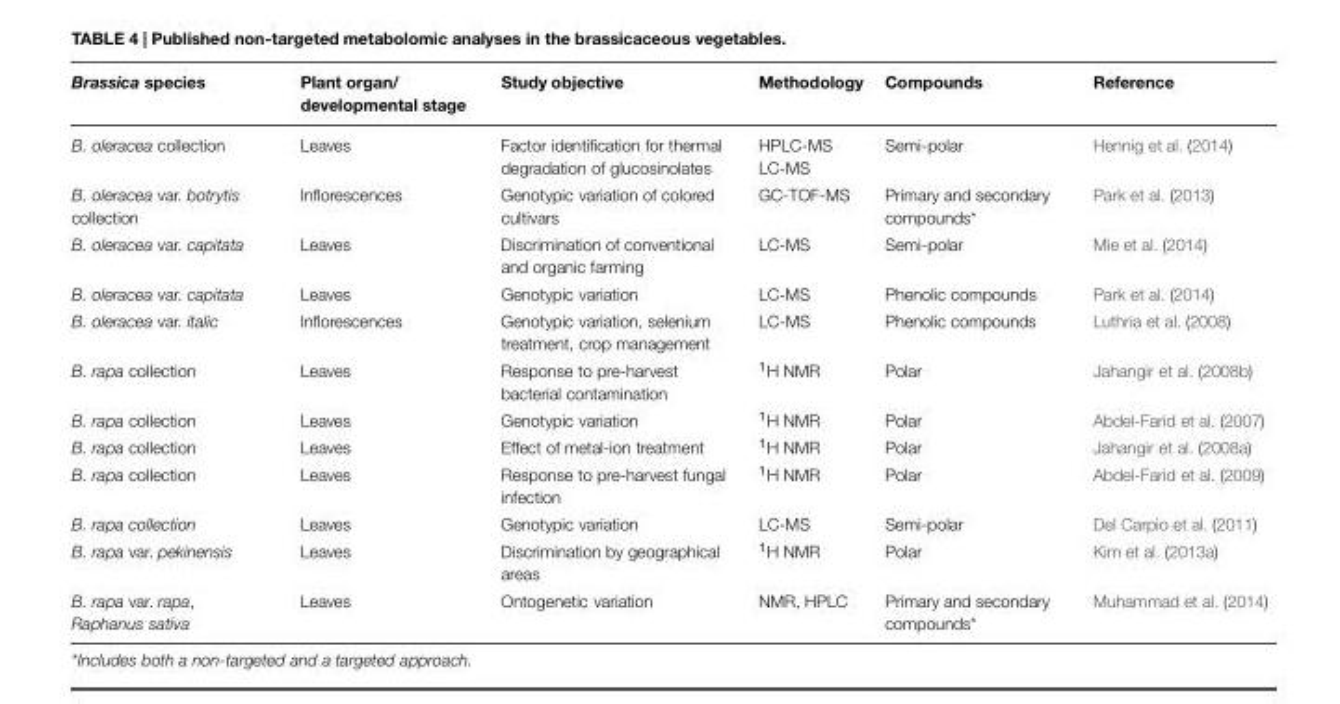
<table><thead><tr><td>Brassica species</td><td>Plant organ/ developmental stage</td><td>Study objective</td><td>Methodology</td><td>Compounds</td><td>Reference</td></tr></thead><tbody><tr><td>B. oleracea collection</td><td>Leaves</td><td>Factor identification for thermal degradation of glucosinolates</td><td>HPLC-MS LC-MS</td><td>Semi-polar</td><td>Hennig et al. (2014)</td></tr><tr><td>B. oleracea var. botrytis collection</td><td>Inflorescences</td><td>Genotypic variation of colored cultivars</td><td>GC-TOF-MS</td><td>Primary and secondary compounds*</td><td>Park et al. (2013)</td></tr><tr><td>B. oleracea var. capitata</td><td>Leaves</td><td>Discrimination of conventional and organic farming</td><td>LC-MS</td><td>Semi-polar</td><td>Mie et al. (2014)</td></tr><tr><td>B. oleracea var. capitata</td><td>Leaves</td><td>Genotypic variation</td><td>LC-MS</td><td>Phenolic compounds</td><td>Park et al. (2014)</td></tr><tr><td>B. oleracea var. italic</td><td>Inflorescences</td><td>Genotypic variation, selenium treatment, crop management</td><td>LC-MS</td><td>Phenolic compounds</td><td>Luthria et al. (2008)</td></tr><tr><td>B. rapa collection</td><td>Leaves</td><td>Response to pre-harvest bacterial contamination</td><td><sup>1</sup>H NMR</td><td>Polar</td><td>Jahangir et al. (2008b)</td></tr><tr><td>B. rapa collection</td><td>Leaves</td><td>Genotypic variation</td><td><sup>1</sup>H NMR</td><td>Polar</td><td>Abdel-Farid et al. (2007)</td></tr><tr><td>B. rapa collection</td><td>Leaves</td><td>Effect of metal-ion treatment</td><td><sup>1</sup>H NMR</td><td>Polar</td><td>Jahangir et al. (2008a)</td></tr><tr><td>B. rapa collection</td><td>Leaves</td><td>Response to pre-harvest fungal infection</td><td><sup>1</sup>H NMR</td><td>Polar</td><td>Abdel-Farid et al. (2009)</td></tr><tr><td>B. rapa collection</td><td>Leaves</td><td>Genotypic variation</td><td>LC-MS</td><td>Semi-polar</td><td>Del Carpio et al. (2011)</td></tr><tr><td>B. rapa var. pekinensis</td><td>Leaves</td><td>Discrimination by geographical areas</td><td><sup>1</sup>H NMR</td><td>Polar</td><td>Kim et al. (2013a)</td></tr><tr><td>B. rapa var. rapa, Raphanus sativa</td><td>Leaves</td><td>Ontogenetic variation</td><td>NMR, HPLC</td><td>Primary and secondary compounds*</td><td>Muhammad et al. (2014)</td></tr></tbody></table>